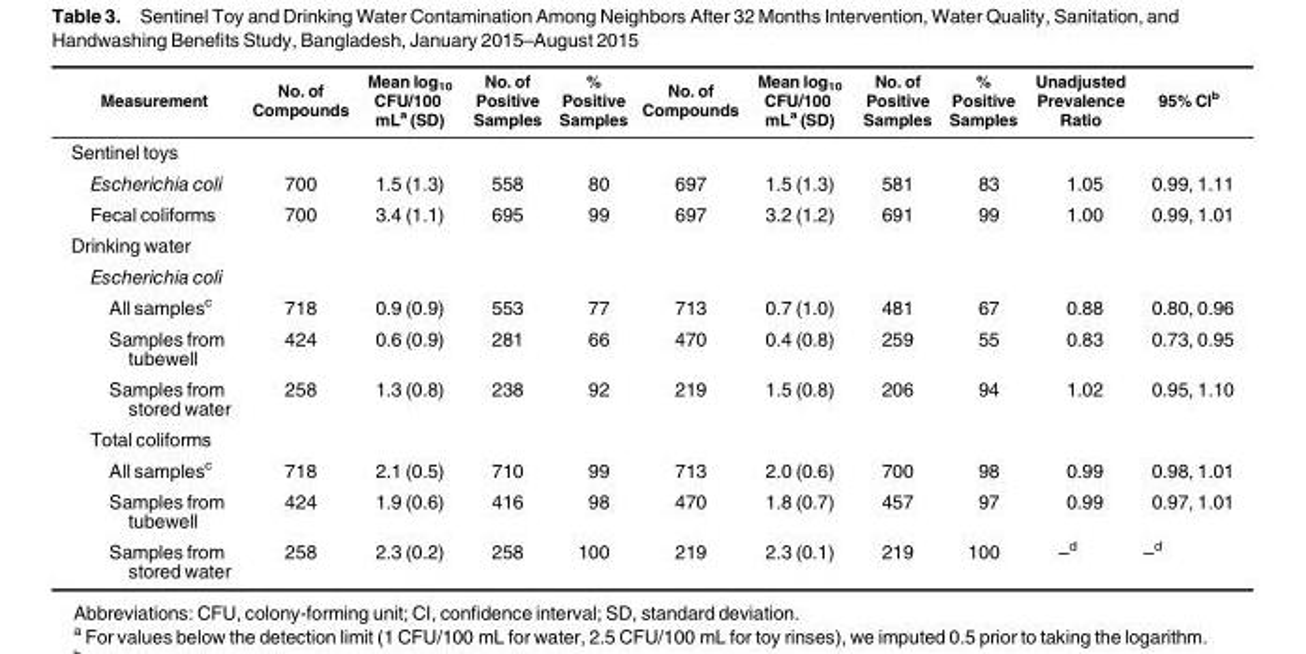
<table><thead><tr><td>Measurement</td><td>No. of Compounds</td><td>Mean log<sub>10</sub> CFU/100 mL<sup>a</sup> (SD)</td><td>No. of Positive Samples</td><td>% Positive Samples</td><td>No. of Compounds</td><td>Mean log<sub>10</sub> CFU/100 mL<sup>a</sup> (SD)</td><td>No. of Positive Samples</td><td>% Positive Samples</td><td>Unadjusted Prevalence Ratio</td><td>95% CI<sup>b</sup></td></tr></thead><tbody><tr><td colspan="11">Sentinel toys</td></tr><tr><td>Escherichia coli</td><td>700</td><td>1.5 (1.3)</td><td>558</td><td>80</td><td>697</td><td>1.5 (1.3)</td><td>581</td><td>83</td><td>1.05</td><td>0.99, 1.11</td></tr><tr><td>Fecal coliforms</td><td>700</td><td>3.4 (1.1)</td><td>695</td><td>99</td><td>697</td><td>3.2 (1.2)</td><td>691</td><td>99</td><td>1.00</td><td>0.99, 1.01</td></tr><tr><td colspan="11">Drinking water</td></tr><tr><td colspan="11">Escherichia coli</td></tr><tr><td>All samples<sup>c</sup></td><td>718</td><td>0.9 (0.9)</td><td>553</td><td>77</td><td>713</td><td>0.7 (1.0)</td><td>481</td><td>67</td><td>0.88</td><td>0.80, 0.96</td></tr><tr><td>Samples from tubewell</td><td>424</td><td>0.6 (0.9)</td><td>281</td><td>66</td><td>470</td><td>0.4 (0.8)</td><td>259</td><td>55</td><td>0.83</td><td>0.73, 0.95</td></tr><tr><td>Samples from stored water</td><td>258</td><td>1.3 (0.8)</td><td>238</td><td>92</td><td>219</td><td>1.5 (0.8)</td><td>206</td><td>94</td><td>1.02</td><td>0.95, 1.10</td></tr><tr><td colspan="11">Total coliforms</td></tr><tr><td>All samples<sup>c</sup></td><td>718</td><td>2.1 (0.5)</td><td>710</td><td>99</td><td>713</td><td>2.0 (0.6)</td><td>700</td><td>98</td><td>0.99</td><td>0.98, 1.01</td></tr><tr><td>Samples from tubewell</td><td>424</td><td>1.9 (0.6)</td><td>416</td><td>98</td><td>470</td><td>1.8 (0.7)</td><td>457</td><td>97</td><td>0.99</td><td>0.97, 1.01</td></tr><tr><td>Samples from stored water</td><td>258</td><td>2.3 (0.2)</td><td>258</td><td>100</td><td>219</td><td>2.3 (0.1)</td><td>219</td><td>100</td><td>–<sup>d</sup></td><td>–<sup>d</sup></td></tr></tbody></table>